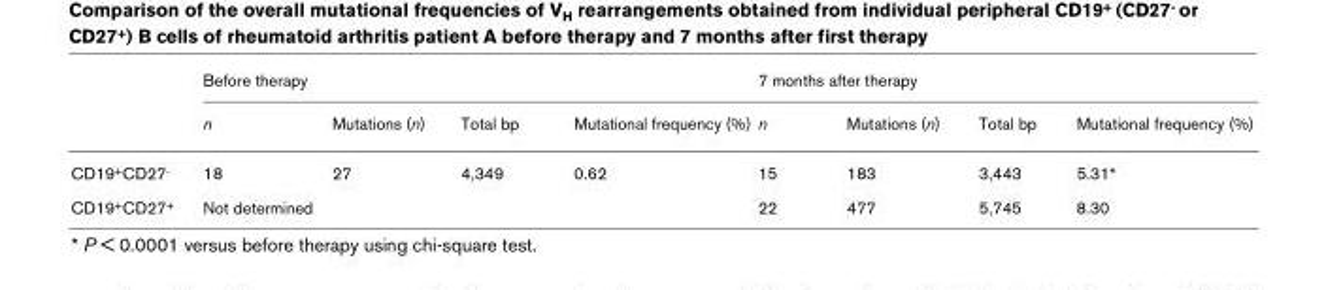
<table><thead><tr><td rowspan="2"></td><td colspan="4">Before therapy</td><td colspan="4">7 months after therapy</td></tr><tr><td>n</td><td>Mutations (n)</td><td>Total bp</td><td>Mutational frequency (%)</td><td>n</td><td>Mutations (n)</td><td>Total bp</td><td>Mutational frequency (%)</td></tr></thead><tbody><tr><td>CD19+CD27-</td><td>18</td><td>27</td><td>4,349</td><td>0.62</td><td>15</td><td>183</td><td>3,443</td><td>5.31*</td></tr><tr><td>CD19+CD27+</td><td colspan="4">Not determined</td><td>22</td><td>477</td><td>5,745</td><td>8.30</td></tr></tbody></table>